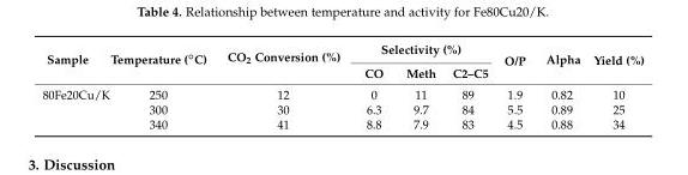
<table><thead><tr><td rowspan="2">Sample</td><td rowspan="2">Temperature (◦C)</td><td rowspan="2">CO<sub>2</sub> Conversion (%)</td><td colspan="3">Selectivity (%)</td><td rowspan="2">O/P</td><td rowspan="2">Alpha</td><td rowspan="2">Yield (%)</td></tr><tr><td>CO</td><td>Meth</td><td>C2–C5</td></tr></thead><tbody><tr><td rowspan="3">80Fe20Cu/K</td><td>250</td><td>12</td><td>0</td><td>11</td><td>89</td><td>1.9</td><td>0.82</td><td>10</td></tr><tr><td>300</td><td>30</td><td>6.3</td><td>9.7</td><td>84</td><td>5.5</td><td>0.89</td><td>25</td></tr><tr><td>340</td><td>41</td><td>8.8</td><td>7.9</td><td>83</td><td>4.5</td><td>0.88</td><td>34</td></tr></tbody></table>